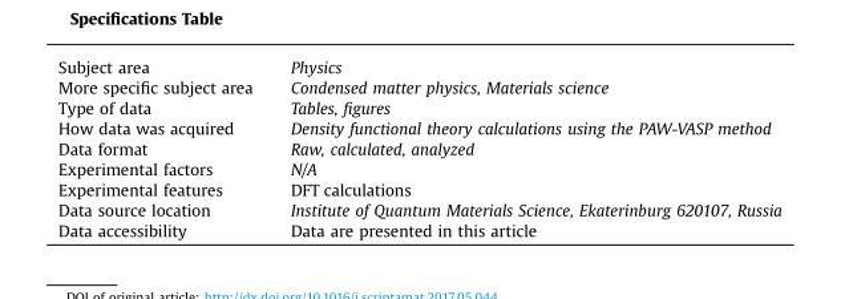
<table><tbody><tr><td>Subject area</td><td>Physics</td></tr><tr><td>More specific subject area</td><td>Condensed matter physics, Materials science</td></tr><tr><td>Type of data</td><td>Tables, figures</td></tr><tr><td>How data was acquired</td><td>Density functional theory calculations using the PAW-VASP method</td></tr><tr><td>Data format</td><td>Raw, calculated, analyzed</td></tr><tr><td>Experimental factors</td><td>N/A</td></tr><tr><td>Experimental features</td><td>DFT calculations</td></tr><tr><td>Data source location</td><td>Institute of Quantum Materials Science, Ekaterinburg 620107, Russia</td></tr><tr><td>Data accessibility</td><td>Data are presented in this article</td></tr></tbody></table>